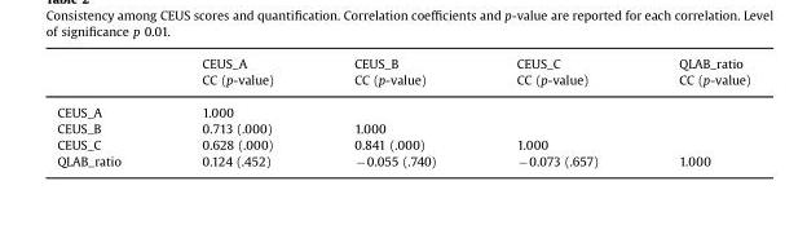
<table><thead><tr><td rowspan="2"></td><td rowspan="2">CEUS_A CC (p-value)</td><td rowspan="2">CEUS_B CC (p-value)</td><td rowspan="2">CEUS_C CC (p-value)</td><td rowspan="2">QLAB_ratio CC (p-value)</td></tr><tr></tr></thead><tbody><tr><td>CEUS_A</td><td>1.000</td><td></td><td></td><td></td></tr><tr><td>CEUS_B</td><td>0.713 (.000)</td><td>1.000</td><td></td><td></td></tr><tr><td>CEUS_C</td><td>0.628 (.000)</td><td>0.841 (.000)</td><td>1.000</td><td></td></tr><tr><td>QLAB_ratio</td><td>0.124 (.452)</td><td>−0.055 (.740)</td><td>−0.073 (.657)</td><td>1.000</td></tr></tbody></table>